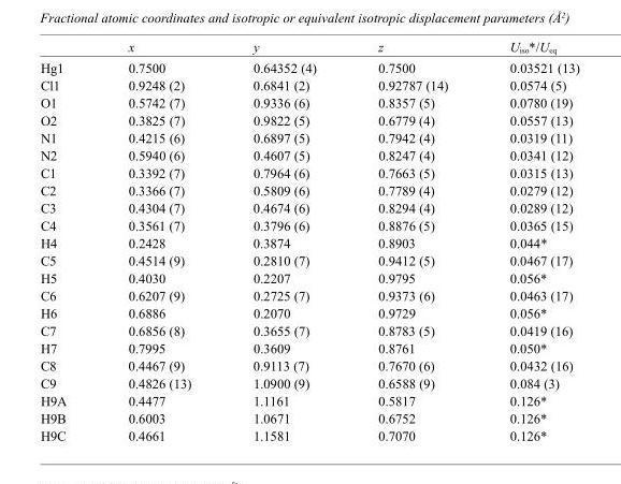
<table><thead><tr><td></td><td>x</td><td>y</td><td>z</td><td>U<sub>iso</sub>*/U<sub>eq</sub></td></tr></thead><tbody><tr><td>Hg1</td><td>0.7500</td><td>0.64352 (4)</td><td>0.7500</td><td>0.03521 (13)</td></tr><tr><td>Cl1</td><td>0.9248 (2)</td><td>0.6841 (2)</td><td>0.92787 (14)</td><td>0.0574 (5)</td></tr><tr><td>O1</td><td>0.5742 (7)</td><td>0.9336 (6)</td><td>0.8357 (5)</td><td>0.0780 (19)</td></tr><tr><td>O2</td><td>0.3825 (7)</td><td>0.9822 (5)</td><td>0.6779 (4)</td><td>0.0557 (13)</td></tr><tr><td>N1</td><td>0.4215 (6)</td><td>0.6897 (5)</td><td>0.7942 (4)</td><td>0.0319 (11)</td></tr><tr><td>N2</td><td>0.5940 (6)</td><td>0.4607 (5)</td><td>0.8247 (4)</td><td>0.0341 (12)</td></tr><tr><td>C1</td><td>0.3392 (7)</td><td>0.7964 (6)</td><td>0.7663 (5)</td><td>0.0315 (13)</td></tr><tr><td>C2</td><td>0.3366 (7)</td><td>0.5809 (6)</td><td>0.7789 (4)</td><td>0.0279 (12)</td></tr><tr><td>C3</td><td>0.4304 (7)</td><td>0.4674 (6)</td><td>0.8294 (4)</td><td>0.0289 (12)</td></tr><tr><td>C4</td><td>0.3561 (7)</td><td>0.3796 (6)</td><td>0.8876 (5)</td><td>0.0365 (15)</td></tr><tr><td>H4</td><td>0.2428</td><td>0.3874</td><td>0.8903</td><td>0.044*</td></tr><tr><td>C5</td><td>0.4514 (9)</td><td>0.2810 (7)</td><td>0.9412 (5)</td><td>0.0467 (17)</td></tr><tr><td>H5</td><td>0.4030</td><td>0.2207</td><td>0.9795</td><td>0.056*</td></tr><tr><td>C6</td><td>0.6207 (9)</td><td>0.2725 (7)</td><td>0.9373 (6)</td><td>0.0463 (17)</td></tr><tr><td>H6</td><td>0.6886</td><td>0.2070</td><td>0.9729</td><td>0.056*</td></tr><tr><td>C7</td><td>0.6856 (8)</td><td>0.3655 (7)</td><td>0.8783 (5)</td><td>0.0419 (16)</td></tr><tr><td>H7</td><td>0.7995</td><td>0.3609</td><td>0.8761</td><td>0.050*</td></tr><tr><td>C8</td><td>0.4467 (9)</td><td>0.9113 (7)</td><td>0.7670 (6)</td><td>0.0432 (16)</td></tr><tr><td>C9</td><td>0.4826 (13)</td><td>1.0900 (9)</td><td>0.6588 (9)</td><td>0.084 (3)</td></tr><tr><td>H9A</td><td>0.4477</td><td>1.1161</td><td>0.5817</td><td>0.126*</td></tr><tr><td>H9B</td><td>0.6003</td><td>1.0671</td><td>0.6752</td><td>0.126*</td></tr><tr><td>H9C</td><td>0.4661</td><td>1.1581</td><td>0.7070</td><td>0.126*</td></tr></tbody></table>